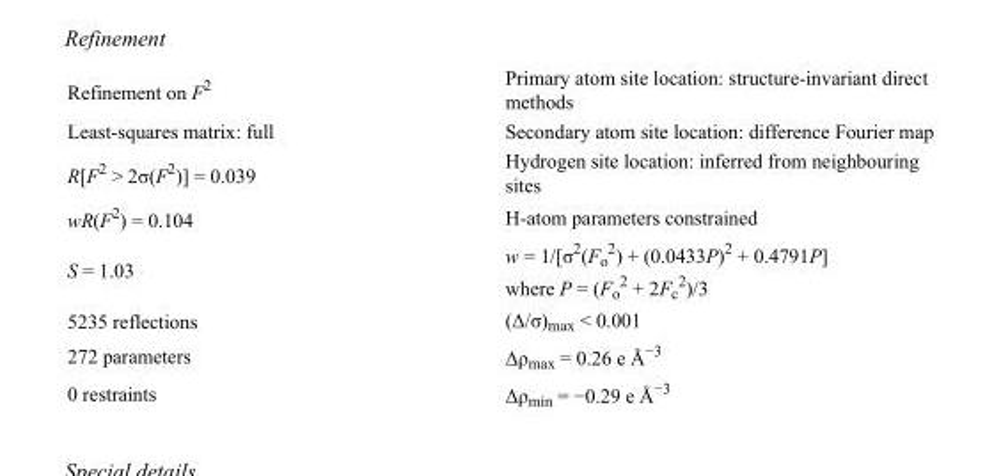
<table><tbody><tr><td>Refinement on F<sup>2</sup></td><td>Primary atom site location: structure-invariant direct methods</td></tr><tr><td>Least-squares matrix: full</td><td>Secondary atom site location: difference Fourier map</td></tr><tr><td>R[F<sup>2</sup> &gt; 2σ(F<sup>2</sup>)] = 0.039</td><td>Hydrogen site location: inferred from neighbouring sites</td></tr><tr><td>wR(F<sup>2</sup>) = 0.104</td><td>H-atom parameters constrained</td></tr><tr><td>S = 1.03</td><td>w = 1/[σ<sup>2</sup>(F<sub>o</sub> <sup>2</sup>) + (0.0433P)<sup>2</sup> + 0.4791P] where P = (F<sub>o</sub> <sup>2</sup> + 2F<sub>c</sub> <sup>2</sup>)/3</td></tr><tr><td>5235 reflections</td><td>(Δ/σ)<sub>max</sub> &lt; 0.001</td></tr><tr><td>272 parameters</td><td>Δρ<sub>max</sub> = 0.26 e Å<sup>−3</sup></td></tr><tr><td>0 restraints</td><td>Δρ<sub>min</sub> = −0.29 e Å<sup>−3</sup></td></tr></tbody></table>